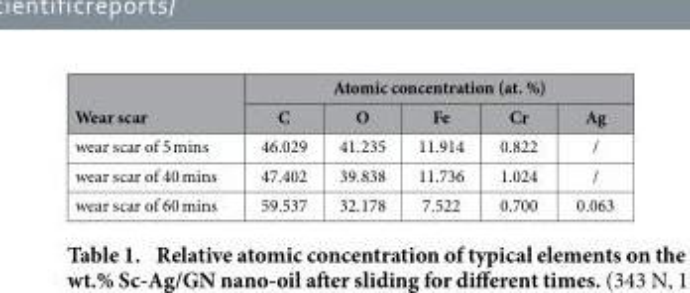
<table><thead><tr><td rowspan="2">Wear scar</td><td colspan="5">Atomic concentration (at. %)</td></tr><tr><td>C</td><td>O</td><td>Fe</td><td>Cr</td><td>Ag</td></tr></thead><tbody><tr><td>wear scar of 5 mins</td><td>46.029</td><td>41.235</td><td>11.914</td><td>0.822</td><td>/</td></tr><tr><td>wear scar of 40 mins</td><td>47.402</td><td>39.838</td><td>11.736</td><td>1.024</td><td>/</td></tr><tr><td>wear scar of 60 mins</td><td>59.537</td><td>32.178</td><td>7.522</td><td>0.700</td><td>0.063</td></tr></tbody></table>